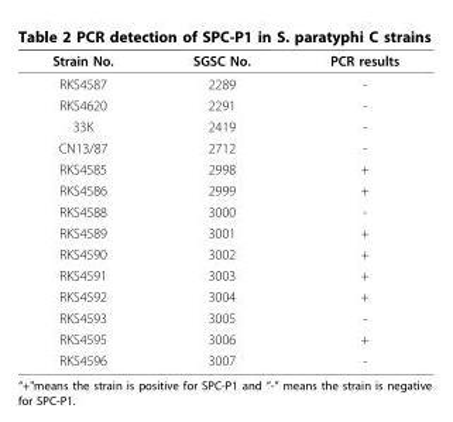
<table><thead><tr><td>Strain No.</td><td>SGSC No.</td><td>PCR results</td></tr></thead><tbody><tr><td>RKS4587</td><td>2289</td><td>-</td></tr><tr><td>RKS4620</td><td>2291</td><td>-</td></tr><tr><td>33K</td><td>2419</td><td>-</td></tr><tr><td>CN13/87</td><td>2712</td><td>-</td></tr><tr><td>RKS4585</td><td>2998</td><td>+</td></tr><tr><td>RKS4586</td><td>2999</td><td>+</td></tr><tr><td>RKS4588</td><td>3000</td><td>-</td></tr><tr><td>RKS4589</td><td>3001</td><td>+</td></tr><tr><td>RKS4590</td><td>3002</td><td>+</td></tr><tr><td>RKS4591</td><td>3003</td><td>+</td></tr><tr><td>RKS4592</td><td>3004</td><td>+</td></tr><tr><td>RKS4593</td><td>3005</td><td>-</td></tr><tr><td>RKS4595</td><td>3006</td><td>+</td></tr><tr><td>RKS4596</td><td>3007</td><td>-</td></tr></tbody></table>